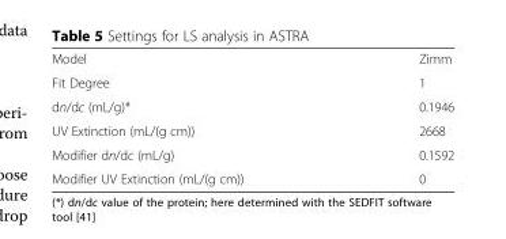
<table><tbody><tr><td>Model</td><td>Zimm</td></tr><tr><td>Fit Degree</td><td>1</td></tr><tr><td>dn/dc (mL/g)*</td><td>0.1946</td></tr><tr><td>UV Extinction (mL/(g cm))</td><td>2668</td></tr><tr><td>Modifier dn/dc (mL/g)</td><td>0.1592</td></tr><tr><td>Modifier UV Extinction (mL/(g cm))</td><td>0</td></tr></tbody></table>